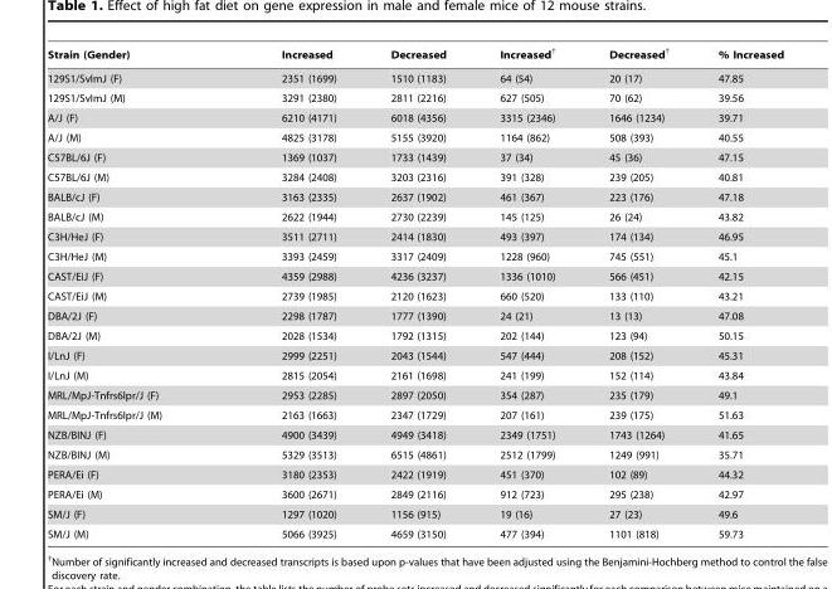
<table><thead><tr><td>Strain (Gender)</td><td>Increased</td><td>Decreased</td><td>Increased†</td><td>Decreased†</td><td>% Increased</td></tr></thead><tbody><tr><td>129S1/SvImJ (F)</td><td>2351 (1699)</td><td>1510 (1183)</td><td>64 (54)</td><td>20 (17)</td><td>47.85</td></tr><tr><td>129S1/SvImJ (M)</td><td>3291 (2380)</td><td>2811 (2216)</td><td>627 (505)</td><td>70 (62)</td><td>39.56</td></tr><tr><td>A/J (F)</td><td>6210 (4171)</td><td>6018 (4356)</td><td>3315 (2346)</td><td>1646 (1234)</td><td>39.71</td></tr><tr><td>A/J (M)</td><td>4825 (3178)</td><td>5155 (3920)</td><td>1164 (862)</td><td>508 (393)</td><td>40.55</td></tr><tr><td>C57BL/6J (F)</td><td>1369 (1037)</td><td>1733 (1439)</td><td>37 (34)</td><td>45 (36)</td><td>47.15</td></tr><tr><td>C57BL/6J (M)</td><td>3284 (2408)</td><td>3203 (2316)</td><td>391 (328)</td><td>239 (205)</td><td>40.81</td></tr><tr><td>BALB/cJ (F)</td><td>3163 (2335)</td><td>2637 (1902)</td><td>461 (367)</td><td>223 (176)</td><td>47.18</td></tr><tr><td>BALB/cJ (M)</td><td>2622 (1944)</td><td>2730 (2239)</td><td>145 (125)</td><td>26 (24)</td><td>43.82</td></tr><tr><td>C3H/HeJ (F)</td><td>3511 (2711)</td><td>2414 (1830)</td><td>493 (397)</td><td>174 (134)</td><td>46.95</td></tr><tr><td>C3H/HeJ (M)</td><td>3393 (2459)</td><td>3317 (2409)</td><td>1228 (960)</td><td>745 (551)</td><td>45.1</td></tr><tr><td>CAST/EiJ (F)</td><td>4359 (2988)</td><td>4236 (3237)</td><td>1336 (1010)</td><td>566 (451)</td><td>42.15</td></tr><tr><td>CAST/EiJ (M)</td><td>2739 (1985)</td><td>2120 (1623)</td><td>660 (520)</td><td>133 (110)</td><td>43.21</td></tr><tr><td>DBA/2J (F)</td><td>2298 (1787)</td><td>1777 (1390)</td><td>24 (21)</td><td>13 (13)</td><td>47.08</td></tr><tr><td>DBA/2J (M)</td><td>2028 (1534)</td><td>1792 (1315)</td><td>202 (144)</td><td>123 (94)</td><td>50.15</td></tr><tr><td>I/LnJ (F)</td><td>2999 (2251)</td><td>2043 (1544)</td><td>547 (444)</td><td>208 (152)</td><td>45.31</td></tr><tr><td>I/LnJ (M)</td><td>2815 (2054)</td><td>2161 (1698)</td><td>241 (199)</td><td>152 (114)</td><td>43.84</td></tr><tr><td>MRL/MpJ-Tnfrs6lpr/J (F)</td><td>2953 (2285)</td><td>2897 (2050)</td><td>354 (287)</td><td>235 (179)</td><td>49.1</td></tr><tr><td>MRL/MpJ-Tnfrs6lpr/J (M)</td><td>2163 (1663)</td><td>2347 (1729)</td><td>207 (161)</td><td>239 (175)</td><td>51.63</td></tr><tr><td>NZB/BINJ (F)</td><td>4900 (3439)</td><td>4949 (3418)</td><td>2349 (1751)</td><td>1743 (1264)</td><td>41.65</td></tr><tr><td>NZB/BINJ (M)</td><td>5329 (3513)</td><td>6515 (4861)</td><td>2512 (1799)</td><td>1249 (991)</td><td>35.71</td></tr><tr><td>PERA/Ei (F)</td><td>3180 (2353)</td><td>2422 (1919)</td><td>451 (370)</td><td>102 (89)</td><td>44.32</td></tr><tr><td>PERA/Ei (M)</td><td>3600 (2671)</td><td>2849 (2116)</td><td>912 (723)</td><td>295 (238)</td><td>42.97</td></tr><tr><td>SM/J (F)</td><td>1297 (1020)</td><td>1156 (915)</td><td>19 (16)</td><td>27 (23)</td><td>49.6</td></tr><tr><td>SM/J (M)</td><td>5066 (3925)</td><td>4659 (3150)</td><td>477 (394)</td><td>1101 (818)</td><td>59.73</td></tr></tbody></table>